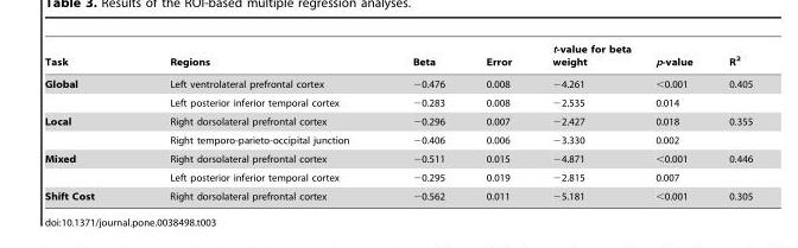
<table><thead><tr><td>Task</td><td>Regions</td><td>Beta</td><td>Error</td><td>t-value for beta weight</td><td>p-value</td><td>R<sup>2</sup></td></tr></thead><tbody><tr><td rowspan="2">Global</td><td>Left ventrolateral prefrontal cortex</td><td>−0.476</td><td>0.008</td><td>−4.261</td><td>&lt;0.001</td><td>0.405</td></tr><tr><td>Left posterior inferior temporal cortex</td><td>−0.283</td><td>0.008</td><td>−2.535</td><td>0.014</td><td></td></tr><tr><td rowspan="2">Local</td><td>Right dorsolateral prefrontal cortex</td><td>−0.296</td><td>0.007</td><td>−2.427</td><td>0.018</td><td>0.355</td></tr><tr><td>Right temporo-parieto-occipital junction</td><td>−0.406</td><td>0.006</td><td>−3.330</td><td>0.002</td><td></td></tr><tr><td rowspan="2">Mixed</td><td>Right dorsolateral prefrontal cortex</td><td>−0.511</td><td>0.015</td><td>−4.871</td><td>&lt;0.001</td><td>0.446</td></tr><tr><td>Left posterior inferior temporal cortex</td><td>−0.295</td><td>0.019</td><td>−2.815</td><td>0.007</td><td></td></tr><tr><td>Shift Cost</td><td>Right dorsolateral prefrontal cortex</td><td>−0.562</td><td>0.011</td><td>−5.181</td><td>&lt;0.001</td><td>0.305</td></tr></tbody></table>